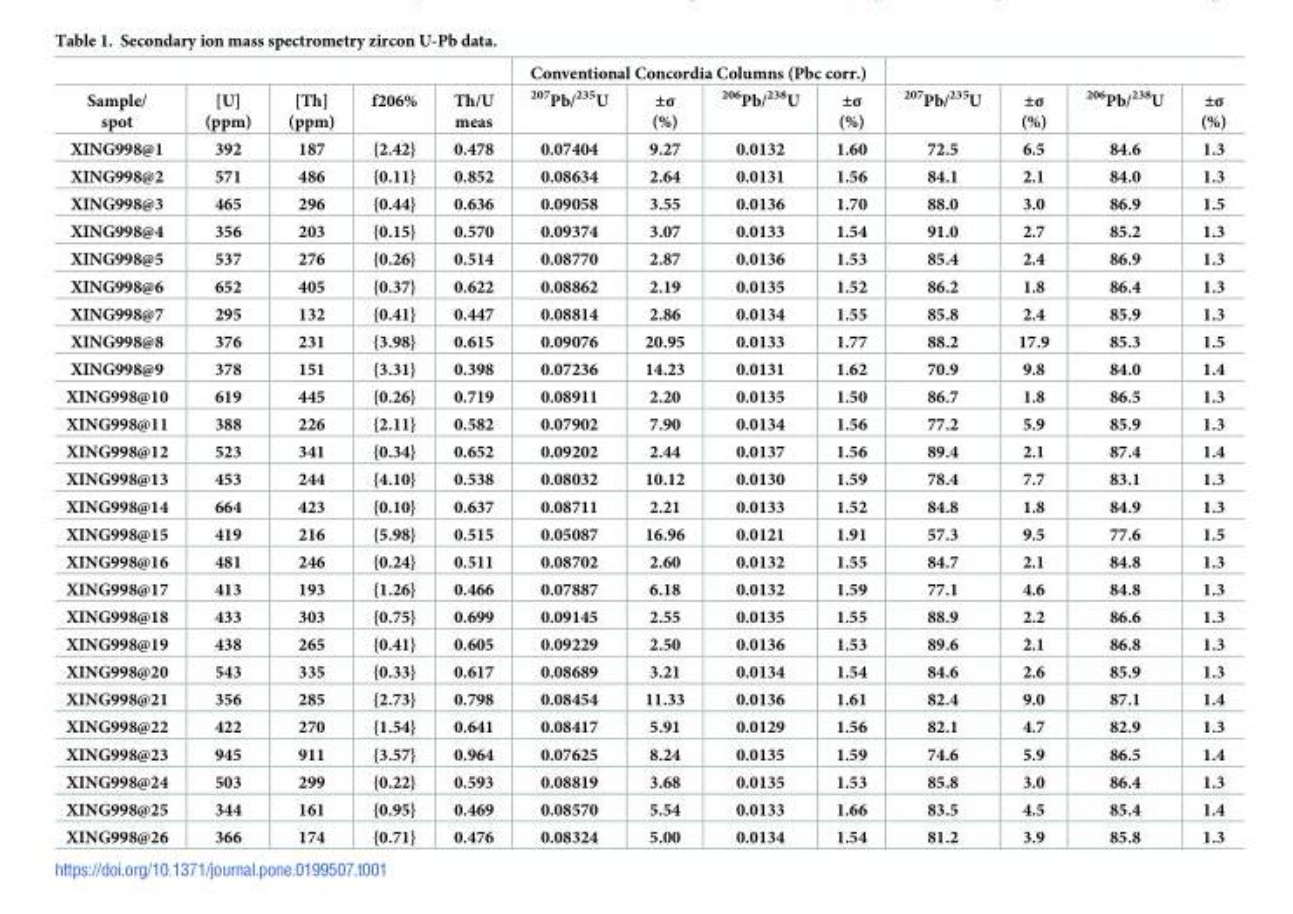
<table><thead><tr><td rowspan="2">Sample/ spot</td><td rowspan="2">[U] (ppm)</td><td rowspan="2">[Th] (ppm)</td><td rowspan="2">f206%</td><td rowspan="2">Th/U meas</td><td colspan="4">Conventional Concordia Columns (Pbc corr.)</td><td rowspan="2"><sup>207</sup>Pb/<sup>235</sup>U</td><td rowspan="2">±σ (%)</td><td rowspan="2"><sup>206</sup>Pb/<sup>238</sup>U</td><td rowspan="2">±σ (%)</td></tr><tr><td><sup>207</sup>Pb/<sup>235</sup>U</td><td>±σ (%)</td><td><sup>206</sup>Pb/<sup>238</sup>U</td><td>±σ (%)</td></tr></thead><tbody><tr><td>XING998@1</td><td>392</td><td>187</td><td>{2.42}</td><td>0.478</td><td>0.07404</td><td>9.27</td><td>0.0132</td><td>1.60</td><td>72.5</td><td>6.5</td><td>84.6</td><td>1.3</td></tr><tr><td>XING998@2</td><td>571</td><td>486</td><td>{0.11}</td><td>0.852</td><td>0.08634</td><td>2.64</td><td>0.0131</td><td>1.56</td><td>84.1</td><td>2.1</td><td>84.0</td><td>1.3</td></tr><tr><td>XING998@3</td><td>465</td><td>296</td><td>{0.44}</td><td>0.636</td><td>0.09058</td><td>3.55</td><td>0.0136</td><td>1.70</td><td>88.0</td><td>3.0</td><td>86.9</td><td>1.5</td></tr><tr><td>XING998@4</td><td>356</td><td>203</td><td>{0.15}</td><td>0.570</td><td>0.09374</td><td>3.07</td><td>0.0133</td><td>1.54</td><td>91.0</td><td>2.7</td><td>85.2</td><td>1.3</td></tr><tr><td>XING998@5</td><td>537</td><td>276</td><td>{0.26}</td><td>0.514</td><td>0.08770</td><td>2.87</td><td>0.0136</td><td>1.53</td><td>85.4</td><td>2.4</td><td>86.9</td><td>1.3</td></tr><tr><td>XING998@6</td><td>652</td><td>405</td><td>{0.37}</td><td>0.622</td><td>0.08862</td><td>2.19</td><td>0.0135</td><td>1.52</td><td>86.2</td><td>1.8</td><td>86.4</td><td>1.3</td></tr><tr><td>XING998@7</td><td>295</td><td>132</td><td>{0.41}</td><td>0.447</td><td>0.08814</td><td>2.86</td><td>0.0134</td><td>1.55</td><td>85.8</td><td>2.4</td><td>85.9</td><td>1.3</td></tr><tr><td>XING998@8</td><td>376</td><td>231</td><td>{3.98}</td><td>0.615</td><td>0.09076</td><td>20.95</td><td>0.0133</td><td>1.77</td><td>88.2</td><td>17.9</td><td>85.3</td><td>1.5</td></tr><tr><td>XING998@9</td><td>378</td><td>151</td><td>{3.31}</td><td>0.398</td><td>0.07236</td><td>14.23</td><td>0.0131</td><td>1.62</td><td>70.9</td><td>9.8</td><td>84.0</td><td>1.4</td></tr><tr><td>XING998@10</td><td>619</td><td>445</td><td>{0.26}</td><td>0.719</td><td>0.08911</td><td>2.20</td><td>0.0135</td><td>1.50</td><td>86.7</td><td>1.8</td><td>86.5</td><td>1.3</td></tr><tr><td>XING998@11</td><td>388</td><td>226</td><td>{2.11}</td><td>0.582</td><td>0.07902</td><td>7.90</td><td>0.0134</td><td>1.56</td><td>77.2</td><td>5.9</td><td>85.9</td><td>1.3</td></tr><tr><td>XING998@12</td><td>523</td><td>341</td><td>{0.34}</td><td>0.652</td><td>0.09202</td><td>2.44</td><td>0.0137</td><td>1.56</td><td>89.4</td><td>2.1</td><td>87.4</td><td>1.4</td></tr><tr><td>XING998@13</td><td>453</td><td>244</td><td>{4.10}</td><td>0.538</td><td>0.08032</td><td>10.12</td><td>0.0130</td><td>1.59</td><td>78.4</td><td>7.7</td><td>83.1</td><td>1.3</td></tr><tr><td>XING998@14</td><td>664</td><td>423</td><td>{0.10}</td><td>0.637</td><td>0.08711</td><td>2.21</td><td>0.0133</td><td>1.52</td><td>84.8</td><td>1.8</td><td>84.9</td><td>1.3</td></tr><tr><td>XING998@15</td><td>419</td><td>216</td><td>{5.98}</td><td>0.515</td><td>0.05087</td><td>16.96</td><td>0.0121</td><td>1.91</td><td>57.3</td><td>9.5</td><td>77.6</td><td>1.5</td></tr><tr><td>XING998@16</td><td>481</td><td>246</td><td>{0.24}</td><td>0.511</td><td>0.08702</td><td>2.60</td><td>0.0132</td><td>1.55</td><td>84.7</td><td>2.1</td><td>84.8</td><td>1.3</td></tr><tr><td>XING998@17</td><td>413</td><td>193</td><td>{1.26}</td><td>0.466</td><td>0.07887</td><td>6.18</td><td>0.0132</td><td>1.59</td><td>77.1</td><td>4.6</td><td>84.8</td><td>1.3</td></tr><tr><td>XING998@18</td><td>433</td><td>303</td><td>{0.75}</td><td>0.699</td><td>0.09145</td><td>2.55</td><td>0.0135</td><td>1.55</td><td>88.9</td><td>2.2</td><td>86.6</td><td>1.3</td></tr><tr><td>XING998@19</td><td>438</td><td>265</td><td>{0.41}</td><td>0.605</td><td>0.09229</td><td>2.50</td><td>0.0136</td><td>1.53</td><td>89.6</td><td>2.1</td><td>86.8</td><td>1.3</td></tr><tr><td>XING998@20</td><td>543</td><td>335</td><td>{0.33}</td><td>0.617</td><td>0.08689</td><td>3.21</td><td>0.0134</td><td>1.54</td><td>84.6</td><td>2.6</td><td>85.9</td><td>1.3</td></tr><tr><td>XING998@21</td><td>356</td><td>285</td><td>{2.73}</td><td>0.798</td><td>0.08454</td><td>11.33</td><td>0.0136</td><td>1.61</td><td>82.4</td><td>9.0</td><td>87.1</td><td>1.4</td></tr><tr><td>XING998@22</td><td>422</td><td>270</td><td>{1.54}</td><td>0.641</td><td>0.08417</td><td>5.91</td><td>0.0129</td><td>1.56</td><td>82.1</td><td>4.7</td><td>82.9</td><td>1.3</td></tr><tr><td>XING998@23</td><td>945</td><td>911</td><td>{3.57}</td><td>0.964</td><td>0.07625</td><td>8.24</td><td>0.0135</td><td>1.59</td><td>74.6</td><td>5.9</td><td>86.5</td><td>1.4</td></tr><tr><td>XING998@24</td><td>503</td><td>299</td><td>{0.22}</td><td>0.593</td><td>0.08819</td><td>3.68</td><td>0.0135</td><td>1.53</td><td>85.8</td><td>3.0</td><td>86.4</td><td>1.3</td></tr><tr><td>XING998@25</td><td>344</td><td>161</td><td>{0.95}</td><td>0.469</td><td>0.08570</td><td>5.54</td><td>0.0133</td><td>1.66</td><td>83.5</td><td>4.5</td><td>85.4</td><td>1.4</td></tr><tr><td>XING998@26</td><td>366</td><td>174</td><td>{0.71}</td><td>0.476</td><td>0.08324</td><td>5.00</td><td>0.0134</td><td>1.54</td><td>81.2</td><td>3.9</td><td>85.8</td><td>1.3</td></tr></tbody></table>